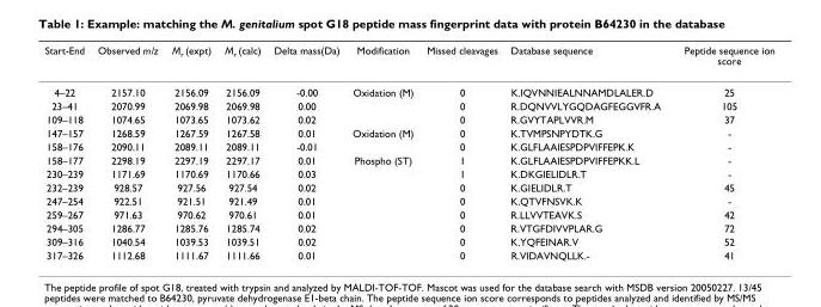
<table><thead><tr><td>Start-End</td><td>Observed m/z</td><td>M<sub>r</sub> (expt)</td><td>M<sub>r</sub> (calc)</td><td>Delta mass(Da)</td><td>Modification</td><td>Missed cleavages</td><td>Database sequence</td><td>Peptide sequence ion score</td></tr></thead><tbody><tr><td>4–22</td><td>2157.10</td><td>2156.09</td><td>2156.09</td><td>-0.00</td><td>Oxidation (M)</td><td>0</td><td>K.IQVNNIEALNNAMDLALER.D</td><td>25</td></tr><tr><td>23–41</td><td>2070.99</td><td>2069.98</td><td>2069.98</td><td>0.00</td><td></td><td>0</td><td>R.DQNVVLYGQDAGFEGGVFR.A</td><td>105</td></tr><tr><td>109–118</td><td>1074.65</td><td>1073.65</td><td>1073.62</td><td>0.02</td><td></td><td>0</td><td>R.GVYTAPLVVR.M</td><td>37</td></tr><tr><td>147–157</td><td>1268.59</td><td>1267.59</td><td>1267.58</td><td>0.01</td><td>Oxidation (M)</td><td>0</td><td>K.TVMPSNPYDTK.G</td><td>-</td></tr><tr><td>158–176</td><td>2090.11</td><td>2089.11</td><td>2089.11</td><td>-0.01</td><td></td><td>0</td><td>K.GLFLAAIESPDPVIFFEPK.K</td><td>-</td></tr><tr><td>158–177</td><td>2298.19</td><td>2297.19</td><td>2297.17</td><td>0.01</td><td>Phospho (ST)</td><td>1</td><td>K.GLFLAAIESPDPVIFFEPKK.L</td><td>-</td></tr><tr><td>230–239</td><td>1171.69</td><td>1170.69</td><td>1170.66</td><td>0.03</td><td></td><td>1</td><td>K.DKGIELIDLR.T</td><td>-</td></tr><tr><td>232–239</td><td>928.57</td><td>927.56</td><td>927.54</td><td>0.02</td><td></td><td>0</td><td>K.GIELIDLR.T</td><td>45</td></tr><tr><td>247–254</td><td>922.51</td><td>921.51</td><td>921.49</td><td>0.01</td><td></td><td>0</td><td>K.QTVFNSVK.K</td><td>-</td></tr><tr><td>259–267</td><td>971.63</td><td>970.62</td><td>970.61</td><td>0.01</td><td></td><td>0</td><td>R.LLVVTEAVK.S</td><td>42</td></tr><tr><td>294–305</td><td>1286.77</td><td>1285.76</td><td>1285.74</td><td>0.02</td><td></td><td>0</td><td>R.VTGFDIVVPLAR.G</td><td>72</td></tr><tr><td>309–316</td><td>1040.54</td><td>1039.53</td><td>1039.51</td><td>0.02</td><td></td><td>0</td><td>K.YQFEINAR.V</td><td>52</td></tr><tr><td>317–326</td><td>1112.68</td><td>1111.67</td><td>1111.66</td><td>0.01</td><td></td><td>0</td><td>R.VIDAVNQLLK.-</td><td>41</td></tr></tbody></table>